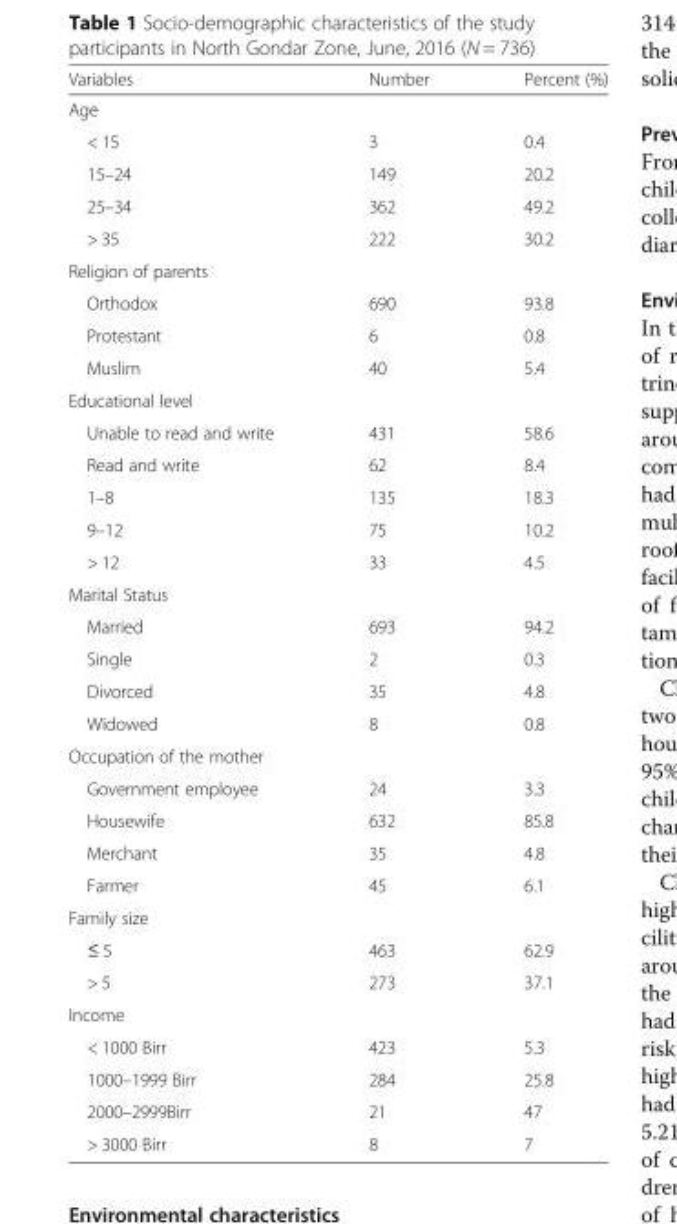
<table><thead><tr><td>Variables</td><td>Number</td><td>Percent (%)</td></tr></thead><tbody><tr><td colspan="3">Age</td></tr><tr><td>&lt; 15</td><td>3</td><td>0.4</td></tr><tr><td>15–24</td><td>149</td><td>20.2</td></tr><tr><td>25–34</td><td>362</td><td>49.2</td></tr><tr><td>&gt; 35</td><td>222</td><td>30.2</td></tr><tr><td colspan="3">Religion of parents</td></tr><tr><td>Orthodox</td><td>690</td><td>93.8</td></tr><tr><td>Protestant</td><td>6</td><td>0.8</td></tr><tr><td>Muslim</td><td>40</td><td>5.4</td></tr><tr><td colspan="3">Educational level</td></tr><tr><td>Unable to read and write</td><td>431</td><td>58.6</td></tr><tr><td>Read and write</td><td>62</td><td>8.4</td></tr><tr><td>1–8</td><td>135</td><td>18.3</td></tr><tr><td>9–12</td><td>75</td><td>10.2</td></tr><tr><td>&gt; 12</td><td>33</td><td>4.5</td></tr><tr><td colspan="3">Marital Status</td></tr><tr><td>Married</td><td>693</td><td>94.2</td></tr><tr><td>Single</td><td>2</td><td>0.3</td></tr><tr><td>Divorced</td><td>35</td><td>4.8</td></tr><tr><td>Widowed</td><td>8</td><td>0.8</td></tr><tr><td colspan="3">Occupation of the mother</td></tr><tr><td>Government employee</td><td>24</td><td>3.3</td></tr><tr><td>Housewife</td><td>632</td><td>85.8</td></tr><tr><td>Merchant</td><td>35</td><td>4.8</td></tr><tr><td>Farmer</td><td>45</td><td>6.1</td></tr><tr><td colspan="3">Family size</td></tr><tr><td>≤ 5</td><td>463</td><td>62.9</td></tr><tr><td>&gt; 5</td><td>273</td><td>37.1</td></tr><tr><td colspan="3">Income</td></tr><tr><td>&lt; 1000 Birr</td><td>423</td><td>5.3</td></tr><tr><td>1000–1999 Birr</td><td>284</td><td>25.8</td></tr><tr><td>2000–2999Birr</td><td>21</td><td>47</td></tr><tr><td>&gt; 3000 Birr</td><td>8</td><td>7</td></tr></tbody></table>